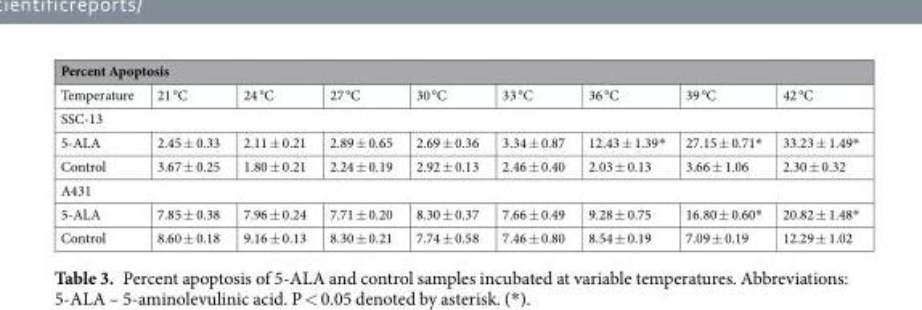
<table><thead><tr><td colspan="9">Percent Apoptosis</td></tr><tr><td>Temperature</td><td>21 °C</td><td>24 °C</td><td>27 °C</td><td>30 °C</td><td>33 °C</td><td>36 °C</td><td>39 °C</td><td>42 °C</td></tr></thead><tbody><tr><td colspan="9">SSC-13</td></tr><tr><td>5-ALA</td><td>2.45 ± 0.33</td><td>2.11 ± 0.21</td><td>2.89 ± 0.65</td><td>2.69 ± 0.36</td><td>3.34 ± 0.87</td><td>12.43 ± 1.39*</td><td>27.15 ± 0.71*</td><td>33.23 ± 1.49*</td></tr><tr><td>Control</td><td>3.67 ± 0.25</td><td>1.80 ± 0.21</td><td>2.24 ± 0.19</td><td>2.92 ± 0.13</td><td>2.46 ± 0.40</td><td>2.03 ± 0.13</td><td>3.66 ± 1.06</td><td>2.30 ± 0.32</td></tr><tr><td colspan="9">A431</td></tr><tr><td>5-ALA</td><td>7.85 ± 0.38</td><td>7.96 ± 0.24</td><td>7.71 ± 0.20</td><td>8.30 ± 0.37</td><td>7.66 ± 0.49</td><td>9.28 ± 0.75</td><td>16.80 ± 0.60*</td><td>20.82 ± 1.48*</td></tr><tr><td>Control</td><td>8.60 ± 0.18</td><td>9.16 ± 0.13</td><td>8.30 ± 0.21</td><td>7.74 ± 0.58</td><td>7.46 ± 0.80</td><td>8.54 ± 0.19</td><td>7.09 ± 0.19</td><td>12.29 ± 1.02</td></tr></tbody></table>